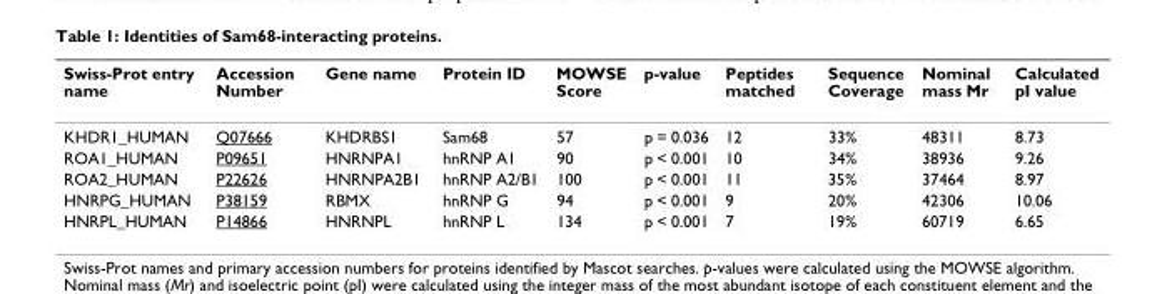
<table><thead><tr><td>Swiss-Prot entry name</td><td>Accession Number</td><td>Gene name</td><td>Protein ID</td><td>MOWSE Score</td><td>p-value</td><td>Peptides matched</td><td>Sequence Coverage</td><td>Nominal mass Mr</td><td>Calculated pI value</td></tr></thead><tbody><tr><td>KHDR1_HUMAN</td><td>Q07666</td><td>KHDRBS1</td><td>Sam68</td><td>57</td><td>p = 0.036</td><td>12</td><td>33%</td><td>48311</td><td>8.73</td></tr><tr><td>ROA1_HUMAN</td><td>P09651</td><td>HNRNPA1</td><td>hnRNP A1</td><td>90</td><td>p &lt; 0.001</td><td>10</td><td>34%</td><td>38936</td><td>9.26</td></tr><tr><td>ROA2_HUMAN</td><td>P22626</td><td>HNRNPA2B1</td><td>hnRNP A2/B1</td><td>100</td><td>p &lt; 0.001</td><td>11</td><td>35%</td><td>37464</td><td>8.97</td></tr><tr><td>HNRPG_HUMAN</td><td>P38159</td><td>RBMX</td><td>hnRNP G</td><td>94</td><td>p &lt; 0.001</td><td>9</td><td>20%</td><td>42306</td><td>10.06</td></tr><tr><td>HNRPL_HUMAN</td><td>P14866</td><td>HNRNPL</td><td>hnRNP L</td><td>134</td><td>p &lt; 0.001</td><td>7</td><td>19%</td><td>60719</td><td>6.65</td></tr></tbody></table>